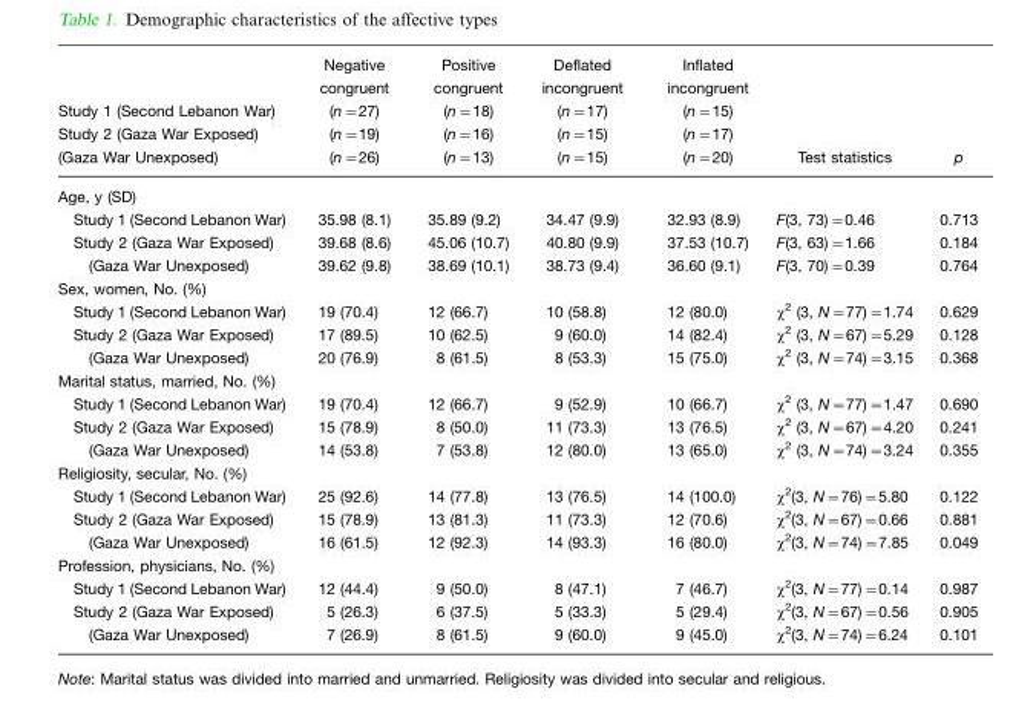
<table><thead><tr><td rowspan="4">Study 1 (Second Lebanon War) Study 2 (Gaza War Exposed) (Gaza War Unexposed)</td><td rowspan="4">Negative congruent (n=27) (n=19) (n=26)</td><td rowspan="4">Positive congruent (n=18) (n=16) (n=13)</td><td rowspan="4">Deflated incongruent (n=17) (n=15) (n=15)</td><td rowspan="4">Inflated incongruent (n=15) (n=17) (n=20)</td><td rowspan="4">Test statistics</td><td rowspan="4">p</td></tr><tr></tr><tr></tr><tr></tr></thead><tbody><tr><td colspan="7">Age, y (SD)</td></tr><tr><td>Study 1 (Second Lebanon War)</td><td>35.98 (8.1)</td><td>35.89 (9.2)</td><td>34.47 (9.9)</td><td>32.93 (8.9)</td><td>F(3, 73)=0.46</td><td>0.713</td></tr><tr><td>Study 2 (Gaza War Exposed)</td><td>39.68 (8.6)</td><td>45.06 (10.7)</td><td>40.80 (9.9)</td><td>37.53 (10.7)</td><td>F(3, 63)=1.66</td><td>0.184</td></tr><tr><td>(Gaza War Unexposed)</td><td>39.62 (9.8)</td><td>38.69 (10.1)</td><td>38.73 (9.4)</td><td>36.60 (9.1)</td><td>F(3, 70)=0.39</td><td>0.764</td></tr><tr><td colspan="7">Sex, women, No. (%)</td></tr><tr><td>Study 1 (Second Lebanon War)</td><td>19 (70.4)</td><td>12 (66.7)</td><td>10 (58.8)</td><td>12 (80.0)</td><td>χ<sup>2</sup> (3, N=77)=1.74</td><td>0.629</td></tr><tr><td>Study 2 (Gaza War Exposed)</td><td>17 (89.5)</td><td>10 (62.5)</td><td>9 (60.0)</td><td>14 (82.4)</td><td>χ<sup>2</sup> (3, N=67)=5.29</td><td>0.128</td></tr><tr><td>(Gaza War Unexposed)</td><td>20 (76.9)</td><td>8 (61.5)</td><td>8 (53.3)</td><td>15 (75.0)</td><td>χ<sup>2</sup> (3, N=74)=3.15</td><td>0.368</td></tr><tr><td colspan="7">Marital status, married, No. (%)</td></tr><tr><td>Study 1 (Second Lebanon War)</td><td>19 (70.4)</td><td>12 (66.7)</td><td>9 (52.9)</td><td>10 (66.7)</td><td>χ<sup>2</sup> (3, N=77)=1.47</td><td>0.690</td></tr><tr><td>Study 2 (Gaza War Exposed)</td><td>15 (78.9)</td><td>8 (50.0)</td><td>11 (73.3)</td><td>13 (76.5)</td><td>χ<sup>2</sup> (3, N=67)=4.20</td><td>0.241</td></tr><tr><td>(Gaza War Unexposed)</td><td>14 (53.8)</td><td>7 (53.8)</td><td>12 (80.0)</td><td>13 (65.0)</td><td>χ<sup>2</sup> (3, N=74)=3.24</td><td>0.355</td></tr><tr><td colspan="7">Religiosity, secular, No. (%)</td></tr><tr><td>Study 1 (Second Lebanon War)</td><td>25 (92.6)</td><td>14 (77.8)</td><td>13 (76.5)</td><td>14 (100.0)</td><td>χ<sup>2</sup>(3, N=76)=5.80</td><td>0.122</td></tr><tr><td>Study 2 (Gaza War Exposed)</td><td>15 (78.9)</td><td>13 (81.3)</td><td>11 (73.3)</td><td>12 (70.6)</td><td>χ<sup>2</sup>(3, N=67)=0.66</td><td>0.881</td></tr><tr><td>(Gaza War Unexposed)</td><td>16 (61.5)</td><td>12 (92.3)</td><td>14 (93.3)</td><td>16 (80.0)</td><td>χ<sup>2</sup>(3, N=74)=7.85</td><td>0.049</td></tr><tr><td colspan="7">Profession, physicians, No. (%)</td></tr><tr><td>Study 1 (Second Lebanon War)</td><td>12 (44.4)</td><td>9 (50.0)</td><td>8 (47.1)</td><td>7 (46.7)</td><td>χ<sup>2</sup>(3, N=77)=0.14</td><td>0.987</td></tr><tr><td>Study 2 (Gaza War Exposed)</td><td>5 (26.3)</td><td>6 (37.5)</td><td>5 (33.3)</td><td>5 (29.4)</td><td>χ<sup>2</sup>(3, N=67)=0.56</td><td>0.905</td></tr><tr><td>(Gaza War Unexposed)</td><td>7 (26.9)</td><td>8 (61.5)</td><td>9 (60.0)</td><td>9 (45.0)</td><td>χ<sup>2</sup>(3, N=74)=6.24</td><td>0.101</td></tr></tbody></table>